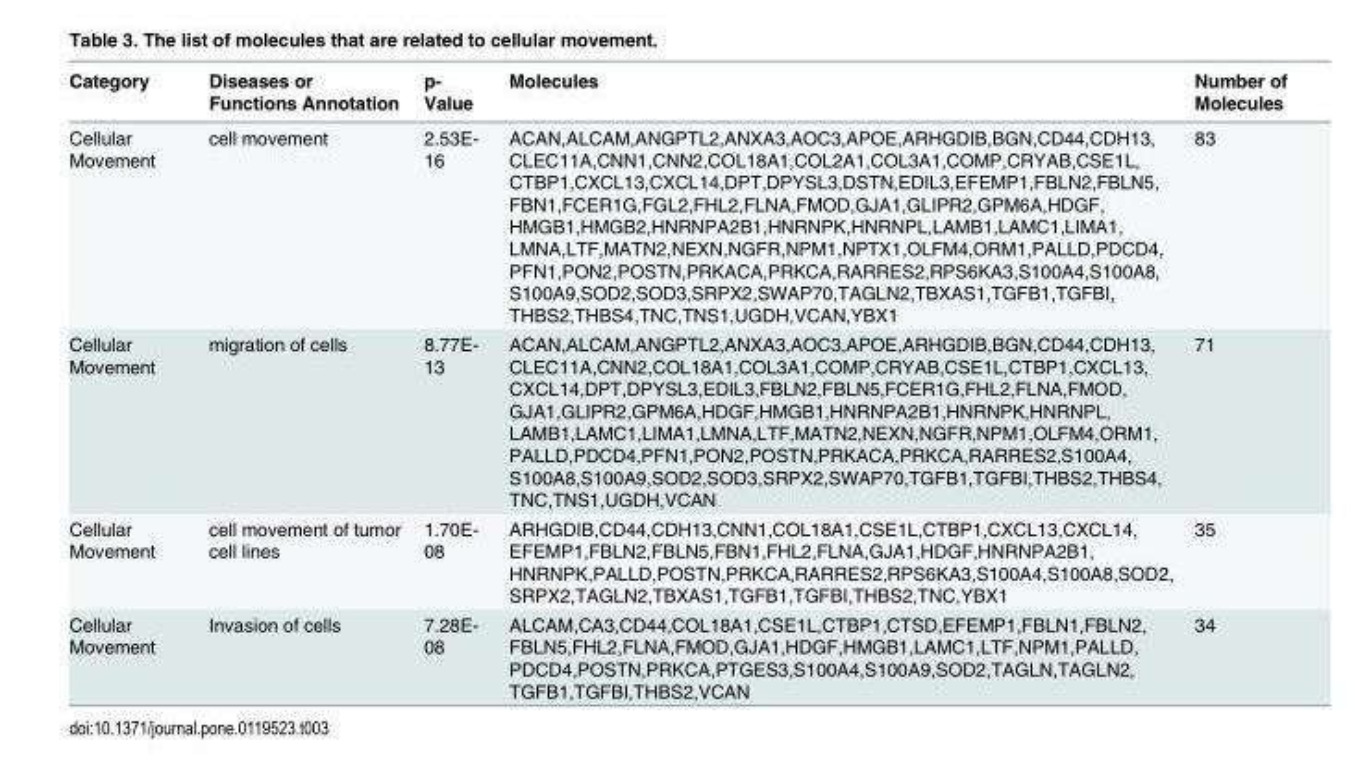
<table><thead><tr><td>Category</td><td>Diseases or Functions Annotation</td><td>p- Value</td><td>Molecules</td><td>Number of Molecules</td></tr></thead><tbody><tr><td>Cellular Movement</td><td>cell movement</td><td>2.53E- 16</td><td>ACAN,ALCAM,ANGPTL2,ANXA3,AOC3,APOE,ARHGDIB,BGN,CD44,CDH13, CLEC11A,CNN1,CNN2,COL18A1,COL2A1,COL3A1,COMP,CRYAB,CSE1L, CTBP1,CXCL13,CXCL14,DPT,DPYSL3,DSTN,EDIL3,EFEMP1,FBLN2,FBLN5, FBN1,FCER1G,FGL2,FHL2,FLNA,FMOD,GJA1,GLIPR2,GPM6A,HDGF, HMGB1,HMGB2,HNRNPA2B1,HNRNPK,HNRNPL,LAMB1,LAMC1,LIMA1, LMNA,LTF,MATN2,NEXN,NGFR,NPM1,NPTX1,OLFM4,ORM1,PALLD,PDCD4, PFN1,PON2,POSTN,PRKACA,PRKCA,RARRES2,RPS6KA3,S100A4,S100A8, S100A9,SOD2,SOD3,SRPX2,SWAP70,TAGLN2,TBXAS1,TGFB1,TGFBI, THBS2,THBS4,TNC,TNS1,UGDH,VCAN,YBX1</td><td>83</td></tr><tr><td>Cellular Movement</td><td>migration of cells</td><td>8.77E- 13</td><td>ACAN,ALCAM,ANGPTL2,ANXA3,AOC3,APOE,ARHGDIB,BGN,CD44,CDH13, CLEC11A,CNN2,COL18A1,COL3A1,COMP,CRYAB,CSE1L,CTBP1,CXCL13, CXCL14,DPT,DPYSL3,EDIL3,FBLN2,FBLN5,FCER1G,FHL2,FLNA,FMOD, GJA1,GLIPR2,GPM6A,HDGF,HMGB1,HNRNPA2B1,HNRNPK,HNRNPL, LAMB1,LAMC1,LIMA1,LMNA,LTF,MATN2,NEXN,NGFR,NPM1,OLFM4,ORM1, PALLD,PDCD4,PFN1,PON2,POSTN,PRKACA,PRKCA,RARRES2,S100A4, S100A8,S100A9,SOD2,SOD3,SRPX2,SWAP70,TGFB1,TGFBI,THBS2,THBS4, TNC,TNS1,UGDH,VCAN</td><td>71</td></tr><tr><td>Cellular Movement</td><td>cell movement of tumor cell lines</td><td>1.70E- 08</td><td>ARHGDIB,CD44,CDH13,CNN1,COL18A1,CSE1L,CTBP1,CXCL13,CXCL14, EFEMP1,FBLN2,FBLN5,FBN1,FHL2,FLNA,GJA1,HDGF,HNRNPA2B1, HNRNPK,PALLD,POSTN,PRKCA,RARRES2,RPS6KA3,S100A4,S100A8,SOD2, SRPX2,TAGLN2,TBXAS1,TGFB1,TGFBI,THBS2,TNC,YBX1</td><td>35</td></tr><tr><td>Cellular Movement</td><td>Invasion of cells</td><td>7.28E- 08</td><td>ALCAM,CA3,CD44,COL18A1,CSE1L,CTBP1,CTSD,EFEMP1,FBLN1,FBLN2, FBLN5,FHL2,FLNA,FMOD,GJA1,HDGF,HMGB1,LAMC1,LTF,NPM1,PALLD, PDCD4,POSTN,PRKCA,PTGES3,S100A4,S100A9,SOD2,TAGLN,TAGLN2, TGFB1,TGFBI,THBS2,VCAN</td><td>34</td></tr></tbody></table>